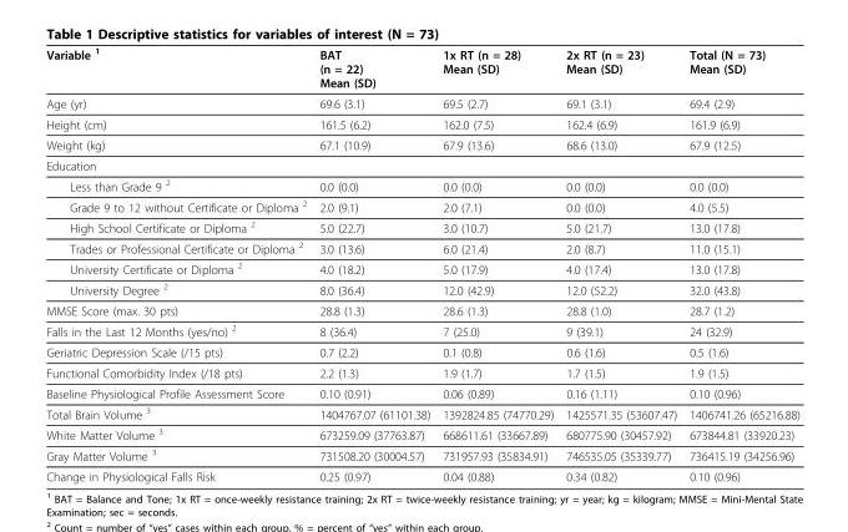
<table><thead><tr><td>Variable <sup>1</sup></td><td>BAT (n = 22) Mean (SD)</td><td>1x RT (n = 28) Mean (SD)</td><td>2x RT (n = 23) Mean (SD)</td><td>Total (N = 73) Mean (SD)</td></tr></thead><tbody><tr><td>Age (yr)</td><td>69.6 (3.1)</td><td>69.5 (2.7)</td><td>69.1 (3.1)</td><td>69.4 (2.9)</td></tr><tr><td>Height (cm)</td><td>161.5 (6.2)</td><td>162.0 (7.5)</td><td>162.4 (6.9)</td><td>161.9 (6.9)</td></tr><tr><td>Weight (kg)</td><td>67.1 (10.9)</td><td>67.9 (13.6)</td><td>68.6 (13.0)</td><td>67.9 (12.5)</td></tr><tr><td colspan="5">Education</td></tr><tr><td>Less than Grade 9 <sup>2</sup></td><td>0.0 (0.0)</td><td>0.0 (0.0)</td><td>0.0 (0.0)</td><td>0.0 (0.0)</td></tr><tr><td>Grade 9 to 12 without Certificate or Diploma <sup>2</sup></td><td>2.0 (9.1)</td><td>2.0 (7.1)</td><td>0.0 (0.0)</td><td>4.0 (5.5)</td></tr><tr><td>High School Certificate or Diploma <sup>2</sup></td><td>5.0 (22.7)</td><td>3.0 (10.7)</td><td>5.0 (21.7)</td><td>13.0 (17.8)</td></tr><tr><td>Trades or Professional Certificate or Diploma <sup>2</sup></td><td>3.0 (13.6)</td><td>6.0 (21.4)</td><td>2.0 (8.7)</td><td>11.0 (15.1)</td></tr><tr><td>University Certificate or Diploma <sup>2</sup></td><td>4.0 (18.2)</td><td>5.0 (17.9)</td><td>4.0 (17.4)</td><td>13.0 (17.8)</td></tr><tr><td>University Degree <sup>2</sup></td><td>8.0 (36.4)</td><td>12.0 (42.9)</td><td>12.0 (52.2)</td><td>32.0 (43.8)</td></tr><tr><td>MMSE Score (max. 30 pts)</td><td>28.8 (1.3)</td><td>28.6 (1.3)</td><td>28.8 (1.0)</td><td>28.7 (1.2)</td></tr><tr><td>Falls in the Last 12 Months (yes/no) <sup>2</sup></td><td>8 (36.4)</td><td>7 (25.0)</td><td>9 (39.1)</td><td>24 (32.9)</td></tr><tr><td>Geriatric Depression Scale (/15 pts)</td><td>0.7 (2.2)</td><td>0.1 (0.8)</td><td>0.6 (1.6)</td><td>0.5 (1.6)</td></tr><tr><td>Functional Comorbidity Index (/18 pts)</td><td>2.2 (1.3)</td><td>1.9 (1.7)</td><td>1.7 (1.5)</td><td>1.9 (1.5)</td></tr><tr><td>Baseline Physiological Profile Assessment Score</td><td>0.10 (0.91)</td><td>0.06 (0.89)</td><td>0.16 (1.11)</td><td>0.10 (0.96)</td></tr><tr><td>Total Brain Volume <sup>3</sup></td><td>1404767.07 (61101.38)</td><td>1392824.85 (74770.29)</td><td>1425571.35 (53607.47)</td><td>1406741.26 (65216.88)</td></tr><tr><td>White Matter Volume <sup>3</sup></td><td>673259.09 (37763.87)</td><td>668611.61 (33667.89)</td><td>680775.90 (30457.92)</td><td>673844.81 (33920.23)</td></tr><tr><td>Gray Matter Volume <sup>3</sup></td><td>731508.20 (30004.57)</td><td>731957.93 (35834.91)</td><td>746535.05 (35339.77)</td><td>736415.19 (34256.96)</td></tr><tr><td>Change in Physiological Falls Risk</td><td>0.25 (0.97)</td><td>0.04 (0.88)</td><td>0.34 (0.82)</td><td>0.10 (0.96)</td></tr></tbody></table>